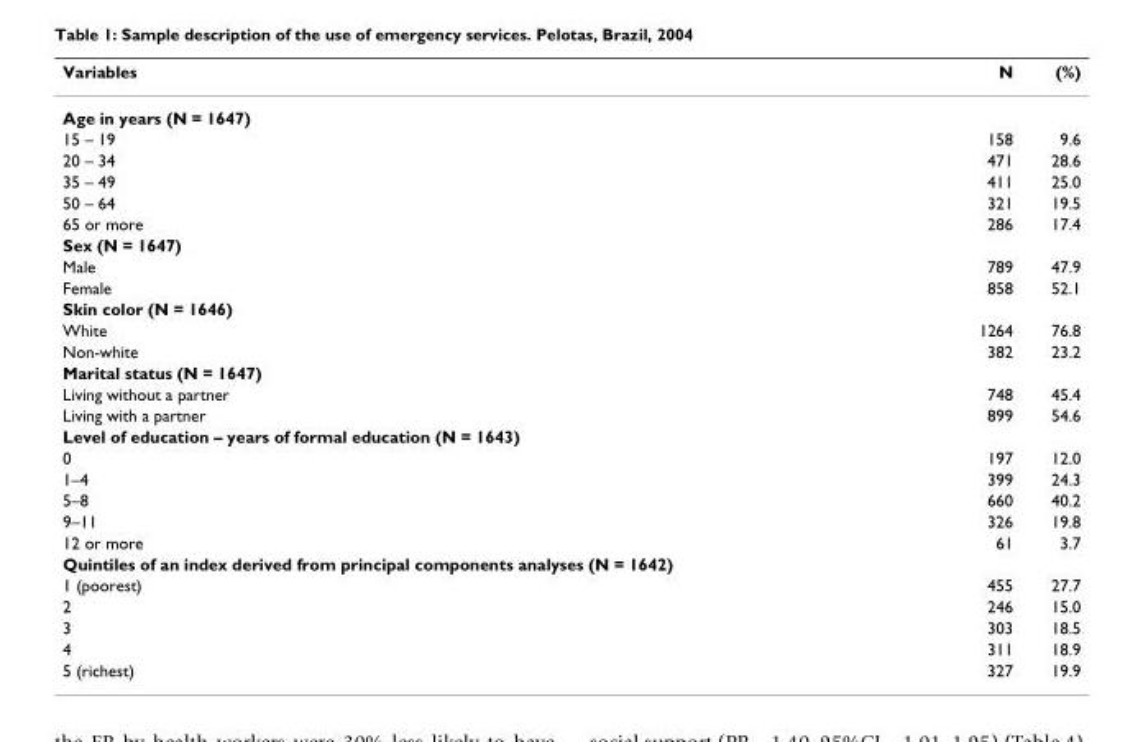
<table><thead><tr><td>Variables</td><td>N</td><td>(%)</td></tr></thead><tbody><tr><td colspan="3">Age in years (N = 1647)</td></tr><tr><td>15 – 19</td><td>158</td><td>9.6</td></tr><tr><td>20 – 34</td><td>471</td><td>28.6</td></tr><tr><td>35 – 49</td><td>411</td><td>25.0</td></tr><tr><td>50 – 64</td><td>321</td><td>19.5</td></tr><tr><td>65 or more</td><td>286</td><td>17.4</td></tr><tr><td colspan="3">Sex (N = 1647)</td></tr><tr><td>Male</td><td>789</td><td>47.9</td></tr><tr><td>Female</td><td>858</td><td>52.1</td></tr><tr><td colspan="3">Skin color (N = 1646)</td></tr><tr><td>White</td><td>1264</td><td>76.8</td></tr><tr><td>Non-white</td><td>382</td><td>23.2</td></tr><tr><td colspan="3">Marital status (N = 1647)</td></tr><tr><td>Living without a partner</td><td>748</td><td>45.4</td></tr><tr><td>Living with a partner</td><td>899</td><td>54.6</td></tr><tr><td colspan="3">Level of education – years of formal education (N = 1643)</td></tr><tr><td>0</td><td>197</td><td>12.0</td></tr><tr><td>1–4</td><td>399</td><td>24.3</td></tr><tr><td>5–8</td><td>660</td><td>40.2</td></tr><tr><td>9–11</td><td>326</td><td>19.8</td></tr><tr><td>12 or more</td><td>61</td><td>3.7</td></tr><tr><td colspan="3">Quintiles of an index derived from principal components analyses (N = 1642)</td></tr><tr><td>1 (poorest)</td><td>455</td><td>27.7</td></tr><tr><td>2</td><td>246</td><td>15.0</td></tr><tr><td>3</td><td>303</td><td>18.5</td></tr><tr><td>4</td><td>311</td><td>18.9</td></tr><tr><td>5 (richest)</td><td>327</td><td>19.9</td></tr></tbody></table>